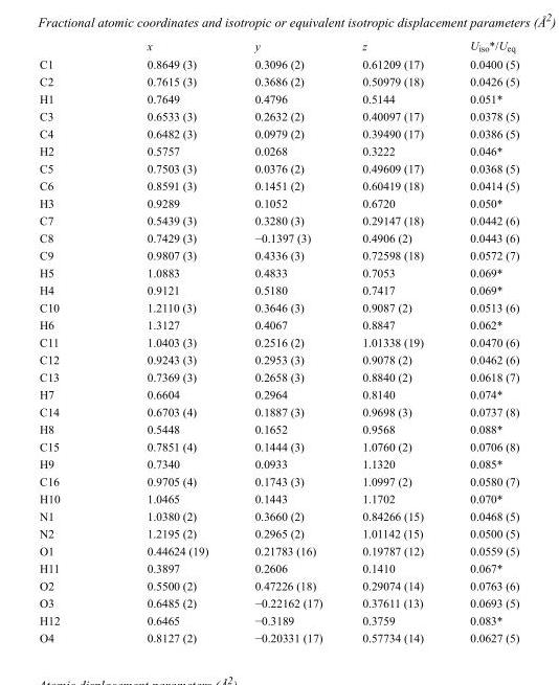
<table><thead><tr><td></td><td>x</td><td>y</td><td>z</td><td>U<sub>iso</sub>*/U<sub>eq</sub></td></tr></thead><tbody><tr><td>C1</td><td>0.8649 (3)</td><td>0.3096 (2)</td><td>0.61209 (17)</td><td>0.0400 (5)</td></tr><tr><td>C2</td><td>0.7615 (3)</td><td>0.3686 (2)</td><td>0.50979 (18)</td><td>0.0426 (5)</td></tr><tr><td>H1</td><td>0.7649</td><td>0.4796</td><td>0.5144</td><td>0.051*</td></tr><tr><td>C3</td><td>0.6533 (3)</td><td>0.2632 (2)</td><td>0.40097 (17)</td><td>0.0378 (5)</td></tr><tr><td>C4</td><td>0.6482 (3)</td><td>0.0979 (2)</td><td>0.39490 (17)</td><td>0.0386 (5)</td></tr><tr><td>H2</td><td>0.5757</td><td>0.0268</td><td>0.3222</td><td>0.046*</td></tr><tr><td>C5</td><td>0.7503 (3)</td><td>0.0376 (2)</td><td>0.49609 (17)</td><td>0.0368 (5)</td></tr><tr><td>C6</td><td>0.8591 (3)</td><td>0.1451 (2)</td><td>0.60419 (18)</td><td>0.0414 (5)</td></tr><tr><td>H3</td><td>0.9289</td><td>0.1052</td><td>0.6720</td><td>0.050*</td></tr><tr><td>C7</td><td>0.5439 (3)</td><td>0.3280 (3)</td><td>0.29147 (18)</td><td>0.0442 (6)</td></tr><tr><td>C8</td><td>0.7429 (3)</td><td>−0.1397 (3)</td><td>0.4906 (2)</td><td>0.0443 (6)</td></tr><tr><td>C9</td><td>0.9807 (3)</td><td>0.4336 (3)</td><td>0.72598 (18)</td><td>0.0572 (7)</td></tr><tr><td>H5</td><td>1.0883</td><td>0.4833</td><td>0.7053</td><td>0.069*</td></tr><tr><td>H4</td><td>0.9121</td><td>0.5180</td><td>0.7417</td><td>0.069*</td></tr><tr><td>C10</td><td>1.2110 (3)</td><td>0.3646 (3)</td><td>0.9087 (2)</td><td>0.0513 (6)</td></tr><tr><td>H6</td><td>1.3127</td><td>0.4067</td><td>0.8847</td><td>0.062*</td></tr><tr><td>C11</td><td>1.0403 (3)</td><td>0.2516 (2)</td><td>1.01338 (19)</td><td>0.0470 (6)</td></tr><tr><td>C12</td><td>0.9243 (3)</td><td>0.2953 (3)</td><td>0.9078 (2)</td><td>0.0462 (6)</td></tr><tr><td>C13</td><td>0.7369 (3)</td><td>0.2658 (3)</td><td>0.8840 (2)</td><td>0.0618 (7)</td></tr><tr><td>H7</td><td>0.6604</td><td>0.2964</td><td>0.8140</td><td>0.074*</td></tr><tr><td>C14</td><td>0.6703 (4)</td><td>0.1887 (3)</td><td>0.9698 (3)</td><td>0.0737 (8)</td></tr><tr><td>H8</td><td>0.5448</td><td>0.1652</td><td>0.9568</td><td>0.088*</td></tr><tr><td>C15</td><td>0.7851 (4)</td><td>0.1444 (3)</td><td>1.0760 (2)</td><td>0.0706 (8)</td></tr><tr><td>H9</td><td>0.7340</td><td>0.0933</td><td>1.1320</td><td>0.085*</td></tr><tr><td>C16</td><td>0.9705 (4)</td><td>0.1743 (3)</td><td>1.0997 (2)</td><td>0.0580 (7)</td></tr><tr><td>H10</td><td>1.0465</td><td>0.1443</td><td>1.1702</td><td>0.070*</td></tr><tr><td>N1</td><td>1.0380 (2)</td><td>0.3660 (2)</td><td>0.84266 (15)</td><td>0.0468 (5)</td></tr><tr><td>N2</td><td>1.2195 (2)</td><td>0.2965 (2)</td><td>1.01142 (15)</td><td>0.0500 (5)</td></tr><tr><td>O1</td><td>0.44624 (19)</td><td>0.21783 (16)</td><td>0.19787 (12)</td><td>0.0559 (5)</td></tr><tr><td>H11</td><td>0.3897</td><td>0.2606</td><td>0.1410</td><td>0.067*</td></tr><tr><td>O2</td><td>0.5500 (2)</td><td>0.47226 (18)</td><td>0.29074 (14)</td><td>0.0763 (6)</td></tr><tr><td>O3</td><td>0.6485 (2)</td><td>−0.22162 (17)</td><td>0.37611 (13)</td><td>0.0693 (5)</td></tr><tr><td>H12</td><td>0.6465</td><td>−0.3189</td><td>0.3759</td><td>0.083*</td></tr><tr><td>O4</td><td>0.8127 (2)</td><td>−0.20331 (17)</td><td>0.57734 (14)</td><td>0.0627 (5)</td></tr></tbody></table>